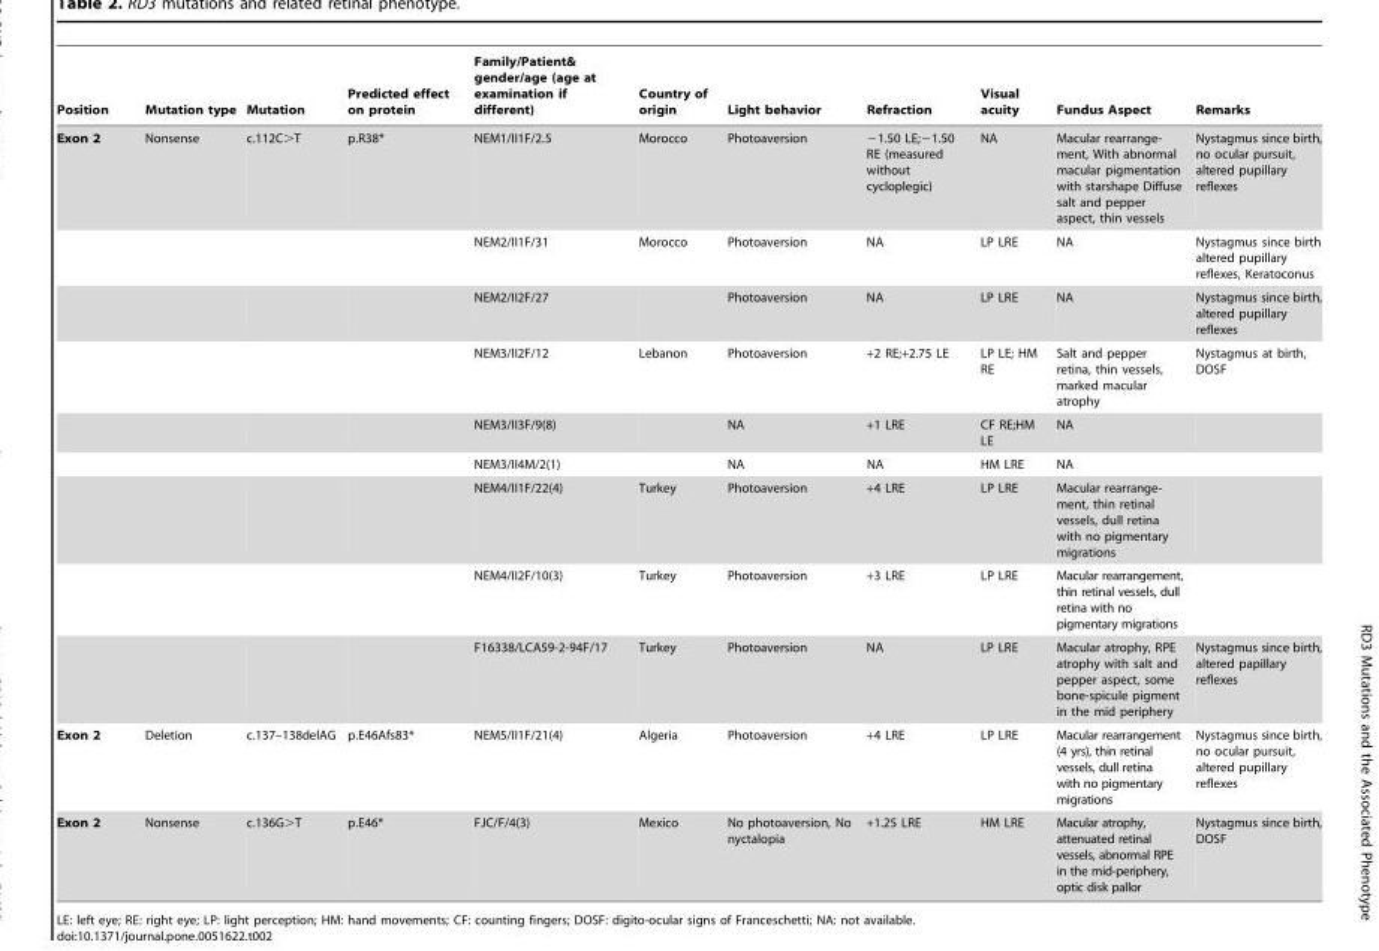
<table><thead><tr><td>Position</td><td>Mutation type</td><td>Mutation</td><td>Predicted effect on protein</td><td>Family/Patient&amp; gender/age (age at examination if different)</td><td>Country of origin</td><td>Light behavior</td><td>Refraction</td><td>Visual acuity</td><td>Fundus Aspect</td><td>Remarks</td></tr></thead><tbody><tr><td rowspan="9">Exon 2</td><td>Nonsense</td><td>c.112C&gt;T</td><td>p.R38*</td><td>NEM1/II1F/2.5</td><td>Morocco</td><td>Photoaversion</td><td>−1.50 LE;−1.50 RE (measured without cycloplegic)</td><td>NA</td><td>Macular rearrange- ment, With abnormal macular pigmentation with starshape Diffuse salt and pepper aspect, thin vessels</td><td>Nystagmus since birth, no ocular pursuit, altered pupillary reflexes</td></tr><tr><td></td><td></td><td></td><td>NEM2/II1F/31</td><td>Morocco</td><td>Photoaversion</td><td>NA</td><td>LP LRE</td><td>NA</td><td>Nystagmus since birth altered pupillary reflexes, Keratoconus</td></tr><tr><td></td><td></td><td></td><td>NEM2/II2F/27</td><td></td><td>Photoaversion</td><td>NA</td><td>LP LRE</td><td>NA</td><td>Nystagmus since birth, altered pupillary reflexes</td></tr><tr><td></td><td></td><td></td><td>NEM3/II2F/12</td><td>Lebanon</td><td>Photoaversion</td><td>+2 RE;+2.75 LE</td><td>LP LE; HM RE</td><td>Salt and pepper retina, thin vessels, marked macular atrophy</td><td>Nystagmus at birth, DOSF</td></tr><tr><td></td><td></td><td></td><td>NEM3/II3F/9(8)</td><td></td><td>NA</td><td>+1 LRE</td><td>CF RE;HM LE</td><td>NA</td><td></td></tr><tr><td></td><td></td><td></td><td>NEM3/II4M/2(1)</td><td></td><td>NA</td><td>NA</td><td>HM LRE</td><td>NA</td><td></td></tr><tr><td></td><td></td><td></td><td>NEM4/II1F/22(4)</td><td>Turkey</td><td>Photoaversion</td><td>+4 LRE</td><td>LP LRE</td><td>Macular rearrange- ment, thin retinal vessels, dull retina with no pigmentary migrations</td><td></td></tr><tr><td></td><td></td><td></td><td>NEM4/II2F/10(3)</td><td>Turkey</td><td>Photoaversion</td><td>+3 LRE</td><td>LP LRE</td><td>Macular rearrangement, thin retinal vessels, dull retina with no pigmentary migrations</td><td></td></tr><tr><td></td><td></td><td></td><td>F16338/LCA59-2-94F/17</td><td>Turkey</td><td>Photoaversion</td><td>NA</td><td>LP LRE</td><td>Macular atrophy, RPE atrophy with salt and pepper aspect, some bone-spicule pigment in the mid periphery</td><td>Nystagmus since birth, altered papillary reflexes</td></tr><tr><td>Exon 2</td><td>Deletion</td><td>c.137–138delAG</td><td>p.E46Afs83*</td><td>NEM5/II1F/21(4)</td><td>Algeria</td><td>Photoaversion</td><td>+4 LRE</td><td>LP LRE</td><td>Macular rearrangement (4 yrs), thin retinal vessels, dull retina with no pigmentary migrations</td><td>Nystagmus since birth, no ocular pursuit, altered pupillary reflexes</td></tr><tr><td>Exon 2</td><td>Nonsense</td><td>c.136G&gt;T</td><td>p.E46*</td><td>FJC/F/4(3)</td><td>Mexico</td><td>No photoaversion, No nyctalopia</td><td>+1.25 LRE</td><td>HM LRE</td><td>Macular atrophy, attenuated retinal vessels, abnormal RPE in the mid-periphery, optic disk pallor</td><td>Nystagmus since birth, DOSF</td></tr></tbody></table>